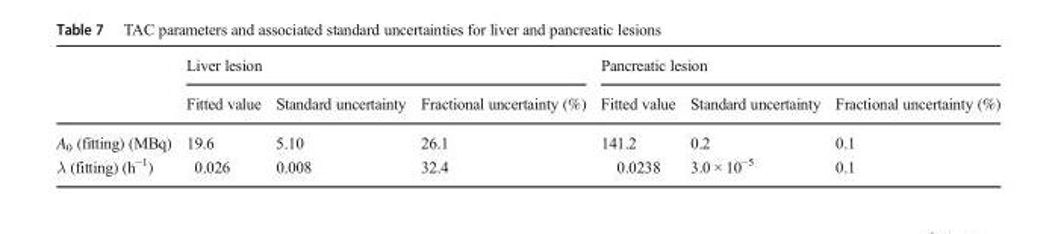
<table><thead><tr><td rowspan="2"></td><td colspan="3">Liver lesion</td><td colspan="3">Pancreatic lesion</td></tr><tr><td>Fitted value</td><td>Standard uncertainty</td><td>Fractional uncertainty (%)</td><td>Fitted value</td><td>Standard uncertainty</td><td>Fractional uncertainty (%)</td></tr></thead><tbody><tr><td>A<sub>0</sub> (fitting) (MBq)</td><td>19.6</td><td>5.10</td><td>26.1</td><td>141.2</td><td>0.2</td><td>0.1</td></tr><tr><td>λ (fitting) (h<sup>−1</sup>)</td><td>0.026</td><td>0.008</td><td>32.4</td><td>0.0238</td><td>3.0 × 10<sup>−5</sup></td><td>0.1</td></tr></tbody></table>